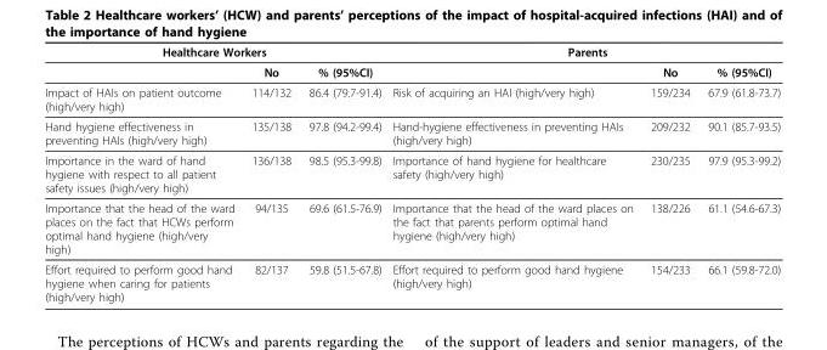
<table><thead><tr><td colspan="3">Healthcare Workers</td><td colspan="3">Parents</td></tr><tr><td></td><td>No</td><td>% (95%CI)</td><td></td><td>No</td><td>% (95%CI)</td></tr></thead><tbody><tr><td>Impact of HAIs on patient outcome (high/very high)</td><td>114/132</td><td>86.4 (79.7-91.4)</td><td>Risk of acquiring an HAI (high/very high)</td><td>159/234</td><td>67.9 (61.8-73.7)</td></tr><tr><td>Hand hygiene effectiveness in preventing HAIs (high/very high)</td><td>135/138</td><td>97.8 (94.2-99.4)</td><td>Hand-hygiene effectiveness in preventing HAIs (high/very high)</td><td>209/232</td><td>90.1 (85.7-93.5)</td></tr><tr><td>Importance in the ward of hand hygiene with respect to all patient safety issues (high/very high)</td><td>136/138</td><td>98.5 (95.3-99.8)</td><td>Importance of hand hygiene for healthcare safety (high/very high)</td><td>230/235</td><td>97.9 (95.3-99.2)</td></tr><tr><td>Importance that the head of the ward places on the fact that HCWs perform optimal hand hygiene (high/very high)</td><td>94/135</td><td>69.6 (61.5-76.9)</td><td>Importance that the head of the ward places on the fact that parents perform optimal hand hygiene (high/very high)</td><td>138/226</td><td>61.1 (54.6-67.3)</td></tr><tr><td>Effort required to perform good hand hygiene when caring for patients (high/very high)</td><td>82/137</td><td>59.8 (51.5-67.8)</td><td>Effort required to perform good hand hygiene (high/very high)</td><td>154/233</td><td>66.1 (59.8-72.0)</td></tr></tbody></table>